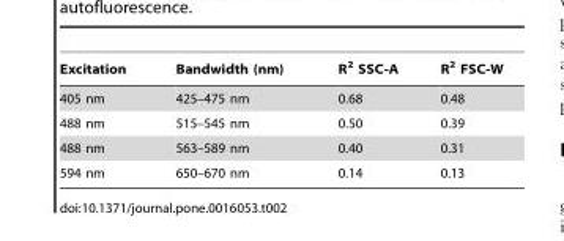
<table><thead><tr><td>Excitation</td><td>Bandwidth (nm)</td><td>R<sup>2</sup> SSC-A</td><td>R<sup>2</sup> FSC-W</td></tr></thead><tbody><tr><td>405 nm</td><td>425–475 nm</td><td>0.68</td><td>0.48</td></tr><tr><td>488 nm</td><td>515–545 nm</td><td>0.50</td><td>0.39</td></tr><tr><td>488 nm</td><td>563–589 nm</td><td>0.40</td><td>0.31</td></tr><tr><td>594 nm</td><td>650–670 nm</td><td>0.14</td><td>0.13</td></tr></tbody></table>